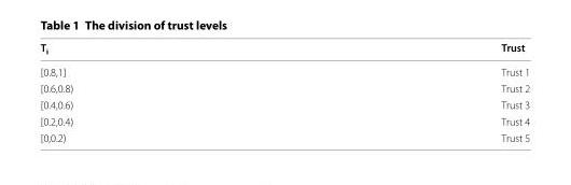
<table><thead><tr><td>T<sub>i</sub></td><td>Trust</td></tr></thead><tbody><tr><td>[0.8,1]</td><td>Trust 1</td></tr><tr><td>[0.6,0.8)</td><td>Trust 2</td></tr><tr><td>[0.4,0.6)</td><td>Trust 3</td></tr><tr><td>[0.2,0.4)</td><td>Trust 4</td></tr><tr><td>[0,0.2)</td><td>Trust 5</td></tr></tbody></table>